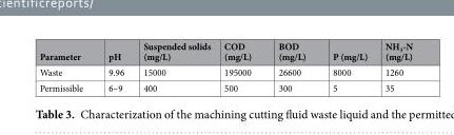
<table><thead><tr><td>Parameter</td><td>pH</td><td>Suspended solids (mg/L)</td><td>COD (mg/L)</td><td>BOD (mg/L)</td><td>P (mg/L)</td><td>NH<sub>3</sub>-N (mg/L)</td></tr></thead><tbody><tr><td>Waste</td><td>9.96</td><td>15000</td><td>195000</td><td>26600</td><td>8000</td><td>1260</td></tr><tr><td>Permissible</td><td>6–9</td><td>400</td><td>500</td><td>300</td><td>5</td><td>35</td></tr></tbody></table>